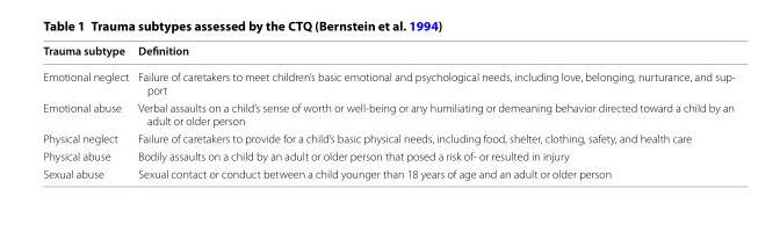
<table><thead><tr><td>Trauma subtype</td><td>Definition</td></tr></thead><tbody><tr><td>Emotional neglect</td><td>Failure of caretakers to meet children’s basic emotional and psychological needs, including love, belonging, nurturance, and sup- port</td></tr><tr><td>Emotional abuse</td><td>Verbal assaults on a child’s sense of worth or well-being or any humiliating or demeaning behavior directed toward a child by an adult or older person</td></tr><tr><td>Physical neglect</td><td>Failure of caretakers to provide for a child’s basic physical needs, including food, shelter, clothing, safety, and health care</td></tr><tr><td>Physical abuse</td><td>Bodily assaults on a child by an adult or older person that posed a risk of- or resulted in injury</td></tr><tr><td>Sexual abuse</td><td>Sexual contact or conduct between a child younger than 18 years of age and an adult or older person</td></tr></tbody></table>